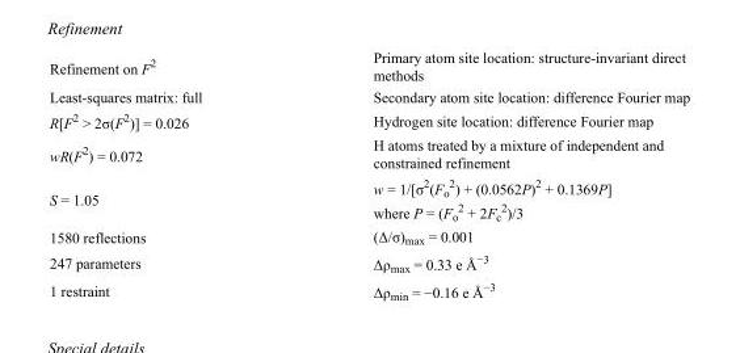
<table><tbody><tr><td>Refinement on F<sup>2</sup></td><td>Primary atom site location: structure-invariant direct methods</td></tr><tr><td>Least-squares matrix: full</td><td>Secondary atom site location: difference Fourier map</td></tr><tr><td>R[F<sup>2</sup> &gt; 2σ(F<sup>2</sup>)] = 0.026</td><td>Hydrogen site location: difference Fourier map</td></tr><tr><td>wR(F<sup>2</sup>) = 0.072</td><td>H atoms treated by a mixture of independent and constrained refinement</td></tr><tr><td>S = 1.05</td><td>w = 1/[σ<sup>2</sup>(F<sub>o</sub> <sup>2</sup>) + (0.0562P)<sup>2</sup> + 0.1369P] where P = (F<sub>o</sub> <sup>2</sup> + 2F<sub>c</sub> <sup>2</sup>)/3</td></tr><tr><td>1580 reflections</td><td>(Δ/σ)<sub>max</sub> = 0.001</td></tr><tr><td>247 parameters</td><td>Δρ<sub>max</sub> = 0.33 e Å<sup>−3</sup></td></tr><tr><td>1 restraint</td><td>Δρ<sub>min</sub> = −0.16 e Å<sup>−3</sup></td></tr></tbody></table>